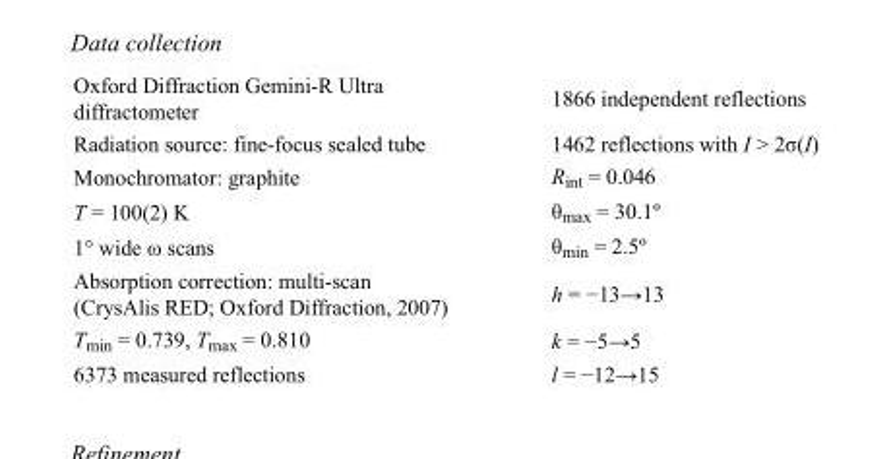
<table><tbody><tr><td>Oxford Diffraction Gemini-R Ultra diffractometer</td><td>1866 independent reflections</td></tr><tr><td>Radiation source: fine-focus sealed tube</td><td>1462 reflections with I &gt; 2σ(I)</td></tr><tr><td>Monochromator: graphite</td><td>R<sub>int</sub> = 0.046</td></tr><tr><td>T = 100(2) K</td><td>θ<sub>max</sub> = 30.1º</td></tr><tr><td>1° wide ω scans</td><td>θ<sub>min</sub> = 2.5º</td></tr><tr><td>Absorption correction: multi-scan (CrysAlis RED; Oxford Diffraction, 2007)</td><td>h = −13→13</td></tr><tr><td>T<sub>min</sub> = 0.739, T<sub>max</sub> = 0.810</td><td>k = −5→5</td></tr><tr><td>6373 measured reflections</td><td>l = −12→15</td></tr></tbody></table>